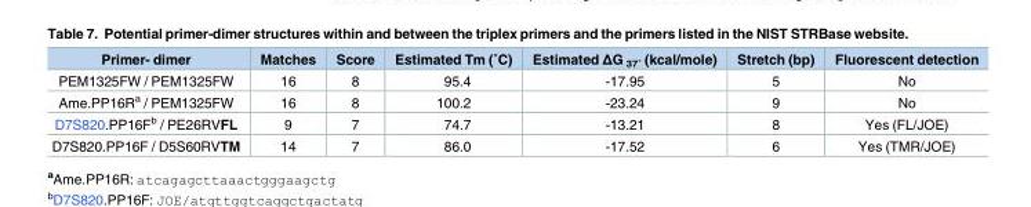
<table><thead><tr><td>Primer- dimer</td><td>Matches</td><td>Score</td><td>Estimated Tm (˚C)</td><td>Estimated ΔG 37˚ (kcal/mole)</td><td>Stretch (bp)</td><td>Fluorescent detection</td></tr></thead><tbody><tr><td>PEM1325FW / PEM1325FW</td><td>16</td><td>8</td><td>95.4</td><td>-17.95</td><td>5</td><td>No</td></tr><tr><td>Ame.PP16R<sup>a</sup> / PEM1325FW</td><td>16</td><td>8</td><td>100.2</td><td>-23.24</td><td>9</td><td>No</td></tr><tr><td>D7S820.PP16F<sup>b</sup> / PE26RVFL</td><td>9</td><td>7</td><td>74.7</td><td>-13.21</td><td>8</td><td>Yes (FL/JOE)</td></tr><tr><td>D7S820.PP16F / D5S60RVTM</td><td>14</td><td>7</td><td>86.0</td><td>-17.52</td><td>6</td><td>Yes (TMR/JOE)</td></tr></tbody></table>